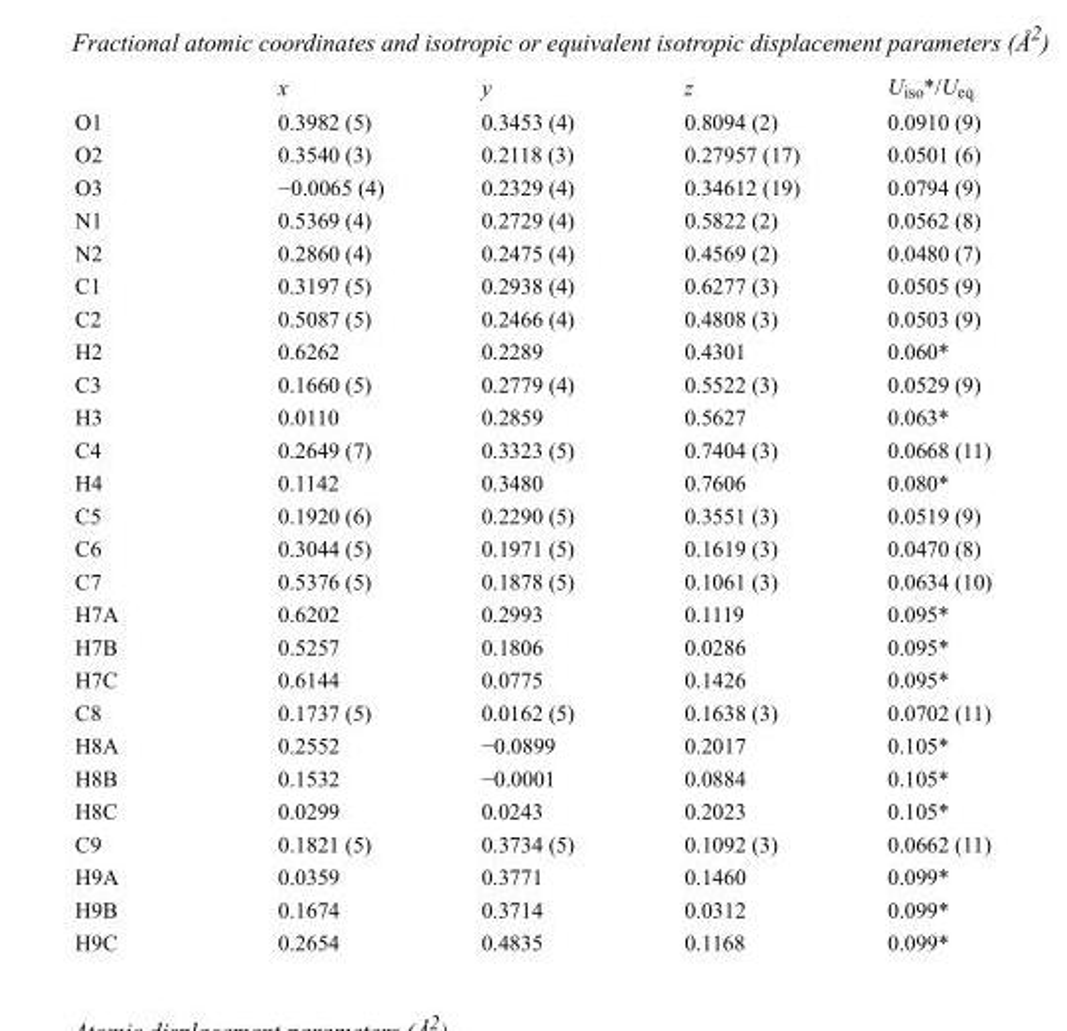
<table><thead><tr><td></td><td>x</td><td>y</td><td>z</td><td>U<sub>iso</sub>*/U<sub>eq</sub></td></tr></thead><tbody><tr><td>O1</td><td>0.3982 (5)</td><td>0.3453 (4)</td><td>0.8094 (2)</td><td>0.0910 (9)</td></tr><tr><td>O2</td><td>0.3540 (3)</td><td>0.2118 (3)</td><td>0.27957 (17)</td><td>0.0501 (6)</td></tr><tr><td>O3</td><td>−0.0065 (4)</td><td>0.2329 (4)</td><td>0.34612 (19)</td><td>0.0794 (9)</td></tr><tr><td>N1</td><td>0.5369 (4)</td><td>0.2729 (4)</td><td>0.5822 (2)</td><td>0.0562 (8)</td></tr><tr><td>N2</td><td>0.2860 (4)</td><td>0.2475 (4)</td><td>0.4569 (2)</td><td>0.0480 (7)</td></tr><tr><td>C1</td><td>0.3197 (5)</td><td>0.2938 (4)</td><td>0.6277 (3)</td><td>0.0505 (9)</td></tr><tr><td>C2</td><td>0.5087 (5)</td><td>0.2466 (4)</td><td>0.4808 (3)</td><td>0.0503 (9)</td></tr><tr><td>H2</td><td>0.6262</td><td>0.2289</td><td>0.4301</td><td>0.060*</td></tr><tr><td>C3</td><td>0.1660 (5)</td><td>0.2779 (4)</td><td>0.5522 (3)</td><td>0.0529 (9)</td></tr><tr><td>H3</td><td>0.0110</td><td>0.2859</td><td>0.5627</td><td>0.063*</td></tr><tr><td>C4</td><td>0.2649 (7)</td><td>0.3323 (5)</td><td>0.7404 (3)</td><td>0.0668 (11)</td></tr><tr><td>H4</td><td>0.1142</td><td>0.3480</td><td>0.7606</td><td>0.080*</td></tr><tr><td>C5</td><td>0.1920 (6)</td><td>0.2290 (5)</td><td>0.3551 (3)</td><td>0.0519 (9)</td></tr><tr><td>C6</td><td>0.3044 (5)</td><td>0.1971 (5)</td><td>0.1619 (3)</td><td>0.0470 (8)</td></tr><tr><td>C7</td><td>0.5376 (5)</td><td>0.1878 (5)</td><td>0.1061 (3)</td><td>0.0634 (10)</td></tr><tr><td>H7A</td><td>0.6202</td><td>0.2993</td><td>0.1119</td><td>0.095*</td></tr><tr><td>H7B</td><td>0.5257</td><td>0.1806</td><td>0.0286</td><td>0.095*</td></tr><tr><td>H7C</td><td>0.6144</td><td>0.0775</td><td>0.1426</td><td>0.095*</td></tr><tr><td>C8</td><td>0.1737 (5)</td><td>0.0162 (5)</td><td>0.1638 (3)</td><td>0.0702 (11)</td></tr><tr><td>H8A</td><td>0.2552</td><td>−0.0899</td><td>0.2017</td><td>0.105*</td></tr><tr><td>H8B</td><td>0.1532</td><td>−0.0001</td><td>0.0884</td><td>0.105*</td></tr><tr><td>H8C</td><td>0.0299</td><td>0.0243</td><td>0.2023</td><td>0.105*</td></tr><tr><td>C9</td><td>0.1821 (5)</td><td>0.3734 (5)</td><td>0.1092 (3)</td><td>0.0662 (11)</td></tr><tr><td>H9A</td><td>0.0359</td><td>0.3771</td><td>0.1460</td><td>0.099*</td></tr><tr><td>H9B</td><td>0.1674</td><td>0.3714</td><td>0.0312</td><td>0.099*</td></tr><tr><td>H9C</td><td>0.2654</td><td>0.4835</td><td>0.1168</td><td>0.099*</td></tr></tbody></table>